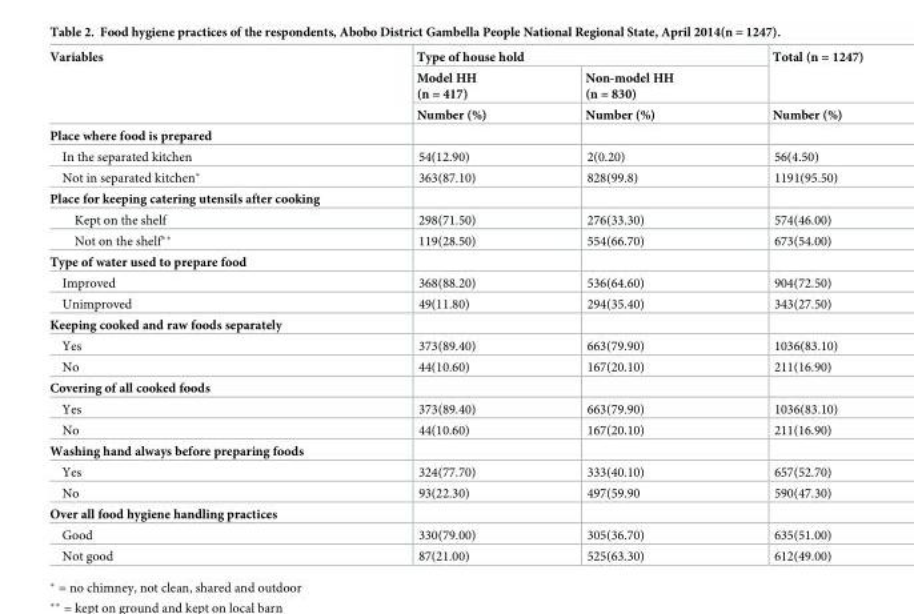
<table><thead><tr><td rowspan="3">Variables</td><td colspan="2">Type of house hold</td><td rowspan="3">Total (n = 1247) Number (%)</td></tr><tr><td rowspan="2">Model HH (n = 417) Number (%)</td><td rowspan="2">Non-model HH (n = 830) Number (%)</td></tr><tr></tr></thead><tbody><tr><td colspan="4">Place where food is prepared</td></tr><tr><td>In the separated kitchen</td><td>54(12.90)</td><td>2(0.20)</td><td>56(4.50)</td></tr><tr><td>Not in separated kitchen*</td><td>363(87.10)</td><td>828(99.8)</td><td>1191(95.50)</td></tr><tr><td colspan="4">Place for keeping catering utensils after cooking</td></tr><tr><td>Kept on the shelf</td><td>298(71.50)</td><td>276(33.30)</td><td>574(46.00)</td></tr><tr><td>Not on the shelf**</td><td>119(28.50)</td><td>554(66.70)</td><td>673(54.00)</td></tr><tr><td colspan="4">Type of water used to prepare food</td></tr><tr><td>Improved</td><td>368(88.20)</td><td>536(64.60)</td><td>904(72.50)</td></tr><tr><td>Unimproved</td><td>49(11.80)</td><td>294(35.40)</td><td>343(27.50)</td></tr><tr><td colspan="4">Keeping cooked and raw foods separately</td></tr><tr><td>Yes</td><td>373(89.40)</td><td>663(79.90)</td><td>1036(83.10)</td></tr><tr><td>No</td><td>44(10.60)</td><td>167(20.10)</td><td>211(16.90)</td></tr><tr><td colspan="4">Covering of all cooked foods</td></tr><tr><td>Yes</td><td>373(89.40)</td><td>663(79.90)</td><td>1036(83.10)</td></tr><tr><td>No</td><td>44(10.60)</td><td>167(20.10)</td><td>211(16.90)</td></tr><tr><td colspan="4">Washing hand always before preparing foods</td></tr><tr><td>Yes</td><td>324(77.70)</td><td>333(40.10)</td><td>657(52.70)</td></tr><tr><td>No</td><td>93(22.30)</td><td>497(59.90</td><td>590(47.30)</td></tr><tr><td colspan="4">Over all food hygiene handling practices</td></tr><tr><td>Good</td><td>330(79.00)</td><td>305(36.70)</td><td>635(51.00)</td></tr><tr><td>Not good</td><td>87(21.00)</td><td>525(63.30)</td><td>612(49.00)</td></tr></tbody></table>